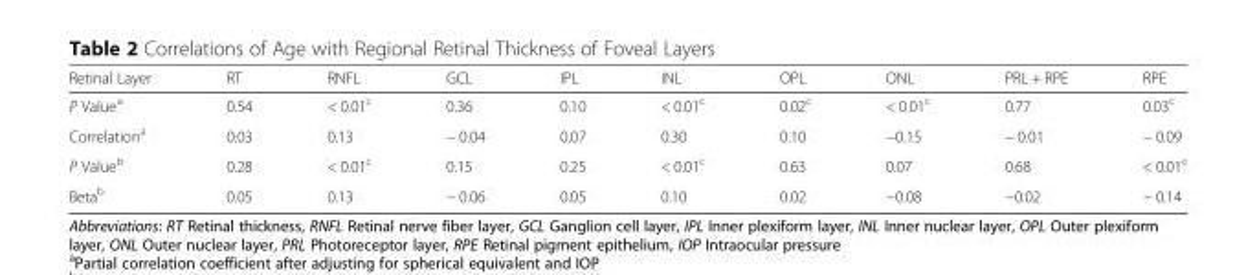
<table><thead><tr><td>Retinal Layer</td><td>RT</td><td>RNFL</td><td>GCL</td><td>IPL</td><td>INL</td><td>OPL</td><td>ONL</td><td>PRL + RPE</td><td>RPE</td></tr></thead><tbody><tr><td>P Value<sup>a</sup></td><td>0.54</td><td>&lt; 0.01<sup>c</sup></td><td>0.36</td><td>0.10</td><td>&lt; 0.01<sup>c</sup></td><td>0.02<sup>c</sup></td><td>&lt; 0.01<sup>c</sup></td><td>0.77</td><td>0.03<sup>c</sup></td></tr><tr><td>Correlation<sup>a</sup></td><td>0.03</td><td>0.13</td><td>− 0.04</td><td>0.07</td><td>0.30</td><td>0.10</td><td>−0.15</td><td>− 0.01</td><td>− 0.09</td></tr><tr><td>P Value<sup>b</sup></td><td>0.28</td><td>&lt; 0.01<sup>c</sup></td><td>0.15</td><td>0.25</td><td>&lt; 0.01<sup>c</sup></td><td>0.63</td><td>0.07</td><td>0.68</td><td>&lt; 0.01<sup>c</sup></td></tr><tr><td>Beta<sup>b</sup></td><td>0.05</td><td>0.13</td><td>− 0.06</td><td>0.05</td><td>0.10</td><td>0.02</td><td>−0.08</td><td>−0.02</td><td>− 0.14</td></tr></tbody></table>